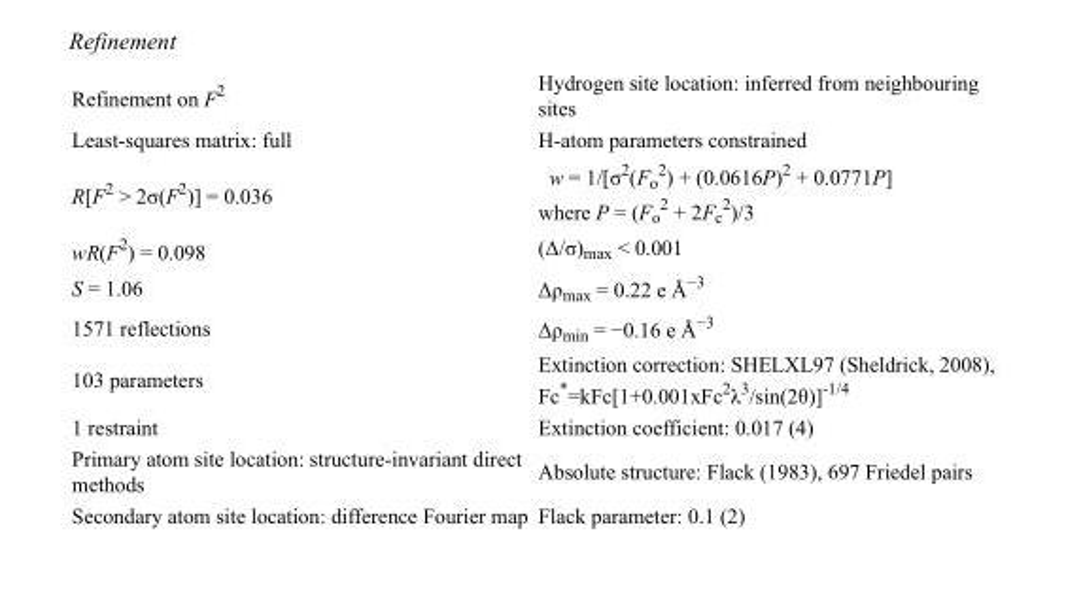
<table><tbody><tr><td>Refinement on F<sup>2</sup></td><td>Hydrogen site location: inferred from neighbouring sites</td></tr><tr><td>Least-squares matrix: full</td><td>H-atom parameters constrained</td></tr><tr><td>R[F<sup>2</sup> &gt; 2σ(F<sup>2</sup>)] = 0.036</td><td>w = 1/[σ<sup>2</sup>(F<sub>o</sub> <sup>2</sup>) + (0.0616P)<sup>2</sup> + 0.0771P] where P = (F<sub>o</sub> <sup>2</sup> + 2F<sub>c</sub> <sup>2</sup>)/3</td></tr><tr><td>wR(F<sup>2</sup>) = 0.098</td><td>(Δ/σ)<sub>max</sub> &lt; 0.001</td></tr><tr><td>S = 1.06</td><td>Δρ<sub>max</sub> = 0.22 e Å<sup>−3</sup></td></tr><tr><td>1571 reflections</td><td>Δρ<sub>min</sub> = −0.16 e Å<sup>−3</sup></td></tr><tr><td>103 parameters</td><td>Extinction correction: SHELXL97 (Sheldrick, 2008), Fc*=kFc[1+0.001xFc<sup>2</sup>λ<sup>3</sup>/sin(2θ)]<sup>-1/4</sup></td></tr><tr><td>1 restraint</td><td>Extinction coefficient: 0.017 (4)</td></tr><tr><td>Primary atom site location: structure-invariant direct methods</td><td>Absolute structure: Flack (1983), 697 Friedel pairs</td></tr><tr><td>Secondary atom site location: difference Fourier map</td><td>Flack parameter: 0.1 (2)</td></tr></tbody></table>